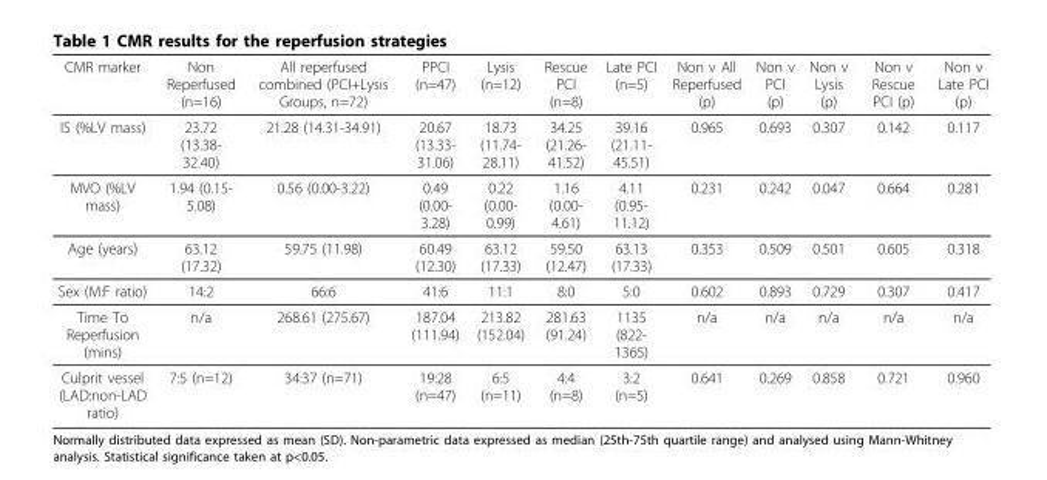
<table><thead><tr><td>CMR marker</td><td>Non Reperfused (n=16)</td><td>All reperfused combined (PCI+Lysis Groups, n=72)</td><td>PPCI (n=47)</td><td>Lysis (n=12)</td><td>Rescue PCI (n=8)</td><td>Late PCI (n=5)</td><td>Non v All Reperfused (p)</td><td>Non v PCI (p)</td><td>Non v Lysis (p)</td><td>Non v Rescue PCI (p)</td><td>Non v Late PCI (p)</td></tr></thead><tbody><tr><td>IS (%LV mass)</td><td>23.72 (13.38- 32.40)</td><td>21.28 (14.31-34.91)</td><td>20.67 (13.33- 31.06)</td><td>18.73 (11.74- 28.11)</td><td>34.25 (21.26- 41.52)</td><td>39.16 (21.11- 45.51)</td><td>0.965</td><td>0.693</td><td>0.307</td><td>0.142</td><td>0.117</td></tr><tr><td>MVO (%LV mass)</td><td>1.94 (0.15- 5.08)</td><td>0.56 (0.00-3.22)</td><td>0.49 (0.00- 3.28)</td><td>0.22 (0.00- 0.99)</td><td>1.16 (0.00- 4.61)</td><td>4.11 (0.95- 11.12)</td><td>0.231</td><td>0.242</td><td>0.047</td><td>0.664</td><td>0.281</td></tr><tr><td>Age (years)</td><td>63.12 (17.32)</td><td>59.75 (11.98)</td><td>60.49 (12.30)</td><td>63.12 (17.33)</td><td>59.50 (12.47)</td><td>63.13 (17.33)</td><td>0.353</td><td>0.509</td><td>0.501</td><td>0.605</td><td>0.318</td></tr><tr><td>Sex (M:F ratio)</td><td>14:2</td><td>66:6</td><td>41:6</td><td>11:1</td><td>8:0</td><td>5:0</td><td>0.602</td><td>0.893</td><td>0.729</td><td>0.307</td><td>0.417</td></tr><tr><td>Time To Reperfusion (mins)</td><td>n/a</td><td>268.61 (275.67)</td><td>187.04 (111.94)</td><td>213.82 (152.04)</td><td>281.63 (91.24)</td><td>1135 (822- 1365)</td><td>n/a</td><td>n/a</td><td>n/a</td><td>n/a</td><td>n/a</td></tr><tr><td>Culprit vessel (LAD:non-LAD ratio)</td><td>7:5 (n=12)</td><td>34:37 (n=71)</td><td>19:28 (n=47)</td><td>6:5 (n=11)</td><td>4:4 (n=8)</td><td>3:2 (n=5)</td><td>0.641</td><td>0.269</td><td>0.858</td><td>0.721</td><td>0.960</td></tr></tbody></table>